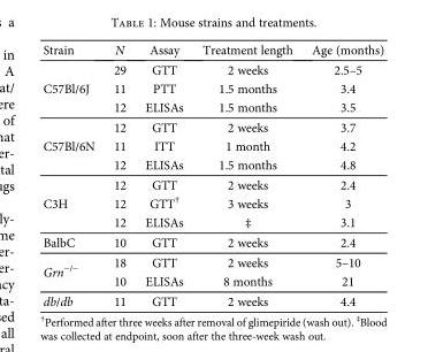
<table><thead><tr><td>Strain</td><td>N</td><td>Assay</td><td>Treatment length</td><td>Age (months)</td></tr></thead><tbody><tr><td rowspan="3">C57Bl/6J</td><td>29</td><td>GTT</td><td>2 weeks</td><td>2.5–5</td></tr><tr><td>11</td><td>PTT</td><td>1.5 months</td><td>3.4</td></tr><tr><td>12</td><td>ELISAs</td><td>1.5 months</td><td>3.5</td></tr><tr><td rowspan="3">C57Bl/6N</td><td>12</td><td>GTT</td><td>2 weeks</td><td>3.7</td></tr><tr><td>11</td><td>ITT</td><td>1 month</td><td>4.2</td></tr><tr><td>12</td><td>ELISAs</td><td>1.5 months</td><td>4.8</td></tr><tr><td rowspan="3">C3H</td><td>12</td><td>GTT</td><td>2 weeks</td><td>2.4</td></tr><tr><td>12</td><td>GTT<sup>†</sup></td><td>3 weeks</td><td>3</td></tr><tr><td>12</td><td>ELISAs</td><td>‡</td><td>3.1</td></tr><tr><td>BalbC</td><td>10</td><td>GTT</td><td>2 weeks</td><td>2.4</td></tr><tr><td rowspan="2">Grn<sup>−/−</sup></td><td>18</td><td>GTT</td><td>2 weeks</td><td>5–10</td></tr><tr><td>10</td><td>ELISAs</td><td>8 months</td><td>21</td></tr><tr><td>db/db</td><td>11</td><td>GTT</td><td>2 weeks</td><td>4.4</td></tr></tbody></table>